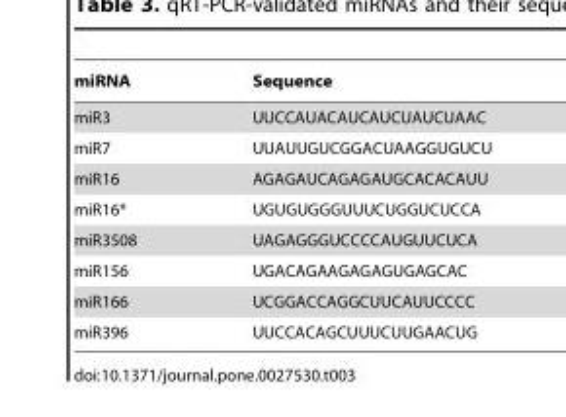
<table><thead><tr><td>miRNA</td><td>Sequence</td></tr></thead><tbody><tr><td>miR3</td><td>UUCCAUACAUCAUCUAUCUAAC</td></tr><tr><td>miR7</td><td>UUAUUGUCGGACUAAGGUGUCU</td></tr><tr><td>miR16</td><td>AGAGAUCAGAGAUGCACACAUU</td></tr><tr><td>miR16*</td><td>UGUGUGGGUUUCUGGUCUCCA</td></tr><tr><td>miR3508</td><td>UAGAGGGUCCCCAUGUUCUCA</td></tr><tr><td>miR156</td><td>UGACAGAAGAGAGUGAGCAC</td></tr><tr><td>miR166</td><td>UCGGACCAGGCUUCAUUCCCC</td></tr><tr><td>miR396</td><td>UUCCACAGCUUUCUUGAACUG</td></tr></tbody></table>